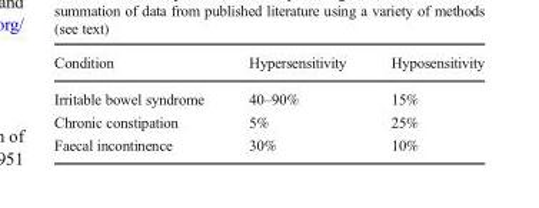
<table><thead><tr><td>Condition</td><td>Hypersensitivity</td><td>Hyposensitivity</td></tr></thead><tbody><tr><td>Irritable bowel syndrome</td><td>40–90%</td><td>15%</td></tr><tr><td>Chronic constipation</td><td>5%</td><td>25%</td></tr><tr><td>Faecal incontinence</td><td>30%</td><td>10%</td></tr></tbody></table>